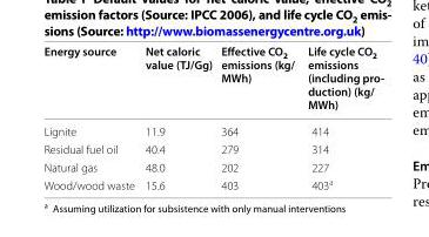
<table><thead><tr><td>Energy source</td><td>Net caloric value (TJ/Gg)</td><td>Effective CO<sub>2</sub> emissions (kg/ MWh)</td><td>Life cycle CO2 emissions (including pro- duction) (kg/ MWh)</td></tr></thead><tbody><tr><td>Lignite</td><td>11.9</td><td>364</td><td>414</td></tr><tr><td>Residual fuel oil</td><td>40.4</td><td>279</td><td>314</td></tr><tr><td>Natural gas</td><td>48.0</td><td>202</td><td>227</td></tr><tr><td>Wood/wood waste</td><td>15.6</td><td>403</td><td>403<sup>a</sup></td></tr></tbody></table>